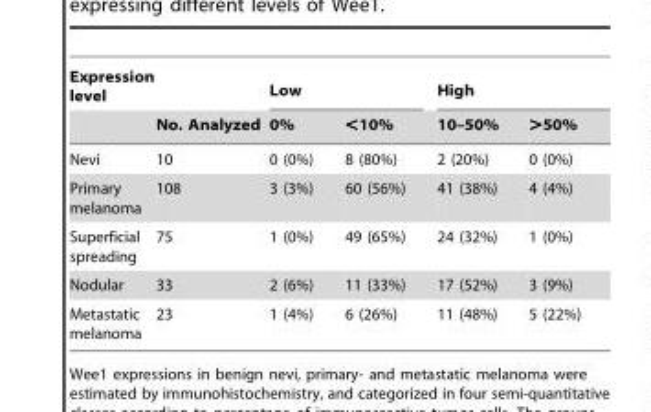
<table><thead><tr><td rowspan="2">Expression level</td><td rowspan="2">No. Analyzed</td><td colspan="2">Low</td><td colspan="2">High</td></tr><tr><td>0%</td><td>&lt;10%</td><td>10–50%</td><td>&gt;50%</td></tr></thead><tbody><tr><td>Nevi</td><td>10</td><td>0 (0%)</td><td>8 (80%)</td><td>2 (20%)</td><td>0 (0%)</td></tr><tr><td>Primary melanoma</td><td>108</td><td>3 (3%)</td><td>60 (56%)</td><td>41 (38%)</td><td>4 (4%)</td></tr><tr><td>Superficial spreading</td><td>75</td><td>1 (0%)</td><td>49 (65%)</td><td>24 (32%)</td><td>1 (0%)</td></tr><tr><td>Nodular</td><td>33</td><td>2 (6%)</td><td>11 (33%)</td><td>17 (52%)</td><td>3 (9%)</td></tr><tr><td>Metastatic melanoma</td><td>23</td><td>1 (4%)</td><td>6 (26%)</td><td>11 (48%)</td><td>5 (22%)</td></tr></tbody></table>